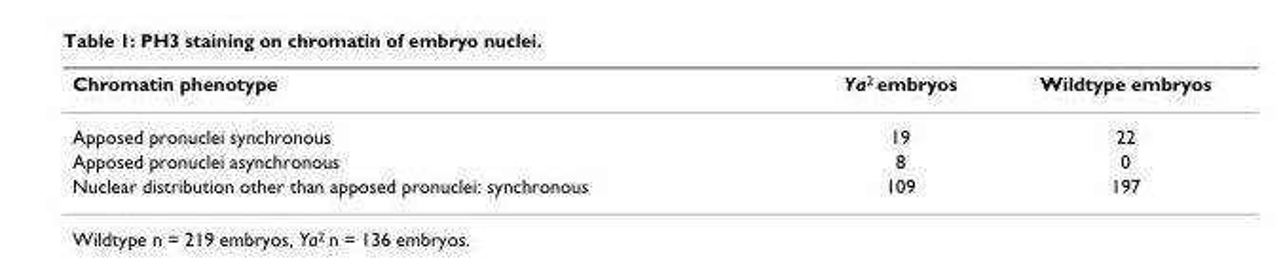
<table><thead><tr><td>Chromatin phenotype</td><td>Ya<sup>2</sup> embryos</td><td>Wildtype embryos</td></tr></thead><tbody><tr><td>Apposed pronuclei synchronous</td><td>19</td><td>22</td></tr><tr><td>Apposed pronuclei asynchronous</td><td>8</td><td>0</td></tr><tr><td>Nuclear distribution other than apposed pronuclei: synchronous</td><td>109</td><td>197</td></tr></tbody></table>